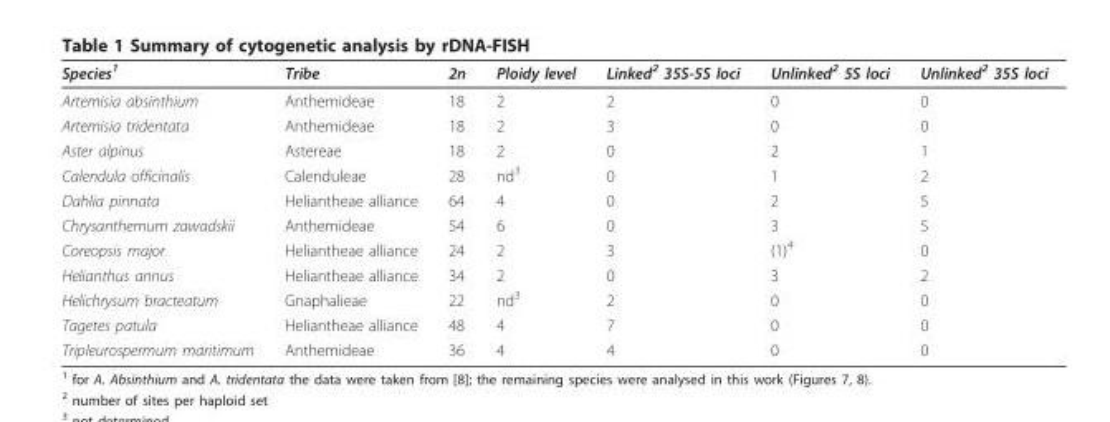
<table><thead><tr><td>Species<sup>1</sup></td><td>Tribe</td><td>2n</td><td>Ploidy level</td><td>Linked<sup>2</sup> 35S-5S loci</td><td>Unlinked<sup>2</sup> 5S loci</td><td>Unlinked<sup>2</sup> 35S loci</td></tr></thead><tbody><tr><td>Artemisia absinthium</td><td>Anthemideae</td><td>18</td><td>2</td><td>2</td><td>0</td><td>0</td></tr><tr><td>Artemisia tridentata</td><td>Anthemideae</td><td>18</td><td>2</td><td>3</td><td>0</td><td>0</td></tr><tr><td>Aster alpinus</td><td>Astereae</td><td>18</td><td>2</td><td>0</td><td>2</td><td>1</td></tr><tr><td>Calendula officinalis</td><td>Calenduleae</td><td>28</td><td>nd<sup>3</sup></td><td>0</td><td>1</td><td>2</td></tr><tr><td>Dahlia pinnata</td><td>Heliantheae alliance</td><td>64</td><td>4</td><td>0</td><td>2</td><td>5</td></tr><tr><td>Chrysanthemum zawadskii</td><td>Anthemideae</td><td>54</td><td>6</td><td>0</td><td>3</td><td>5</td></tr><tr><td>Coreopsis major</td><td>Heliantheae alliance</td><td>24</td><td>2</td><td>3</td><td>(1)<sup>4</sup></td><td>0</td></tr><tr><td>Helianthus annus</td><td>Heliantheae alliance</td><td>34</td><td>2</td><td>0</td><td>3</td><td>2</td></tr><tr><td>Helichrysum bracteatum</td><td>Gnaphalieae</td><td>22</td><td>nd<sup>3</sup></td><td>2</td><td>0</td><td>0</td></tr><tr><td>Tagetes patula</td><td>Heliantheae alliance</td><td>48</td><td>4</td><td>7</td><td>0</td><td>0</td></tr><tr><td>Tripleurospermum maritimum</td><td>Anthemideae</td><td>36</td><td>4</td><td>4</td><td>0</td><td>0</td></tr></tbody></table>